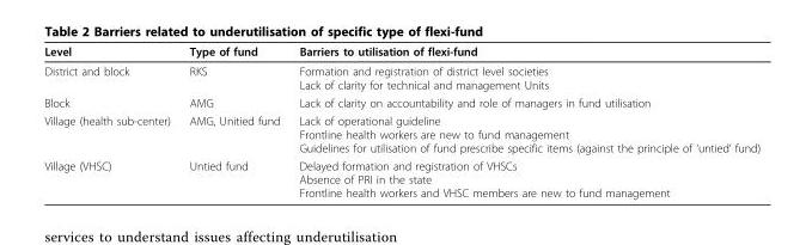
<table><thead><tr><td>Level</td><td>Type of fund</td><td>Barriers to utilisation of flexi-fund</td></tr></thead><tbody><tr><td>District and block</td><td>RKS</td><td>Formation and registration of district level societies Lack of clarity for technical and management Units</td></tr><tr><td>Block</td><td>AMG</td><td>Lack of clarity on accountability and role of managers in fund utilisation</td></tr><tr><td>Village (health sub-center)</td><td>AMG, Unitied fund</td><td>Lack of operational guideline Frontline health workers are new to fund management Guidelines for utilisation of fund prescribe specific items (against the principle of ‘untied’ fund)</td></tr><tr><td>Village (VHSC)</td><td>Untied fund</td><td>Delayed formation and registration of VHSCs Absence of PRI in the state Frontline health workers and VHSC members are new to fund management</td></tr></tbody></table>